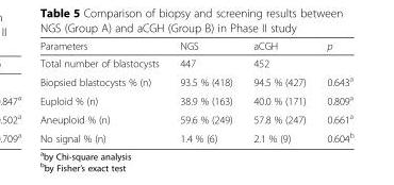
<table><thead><tr><td>Parameters</td><td>NGS</td><td>aCGH</td><td>p</td></tr></thead><tbody><tr><td>Total number of blastocysts</td><td>447</td><td>452</td><td></td></tr><tr><td>Biopsied blastocysts % (n)</td><td>93.5 % (418)</td><td>94.5 % (427)</td><td>0.643<sup>a</sup></td></tr><tr><td>Euploid % (n)</td><td>38.9 % (163)</td><td>40.0 % (171)</td><td>0.809<sup>a</sup></td></tr><tr><td>Aneuploid % (n)</td><td>59.6 % (249)</td><td>57.8 % (247)</td><td>0.661<sup>a</sup></td></tr><tr><td>No signal % (n)</td><td>1.4 % (6)</td><td>2.1 % (9)</td><td>0.604<sup>b</sup></td></tr></tbody></table>